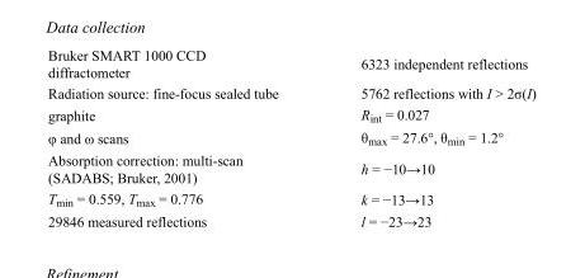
<table><tbody><tr><td>Bruker SMART 1000 CCD diffractometer</td><td>6323 independent reflections</td></tr><tr><td>Radiation source: fine-focus sealed tube</td><td>5762 reflections with I &gt; 2σ(I)</td></tr><tr><td>graphite</td><td>R<sub>int</sub> = 0.027</td></tr><tr><td>φ and ω scans</td><td>θ<sub>max</sub> = 27.6°, θ<sub>min</sub> = 1.2°</td></tr><tr><td>Absorption correction: multi-scan (SADABS; Bruker, 2001)</td><td>h = −10→10</td></tr><tr><td>T<sub>min</sub> = 0.559, T<sub>max</sub> = 0.776</td><td>k = −13→13</td></tr><tr><td>29846 measured reflections</td><td>l = −23→23</td></tr></tbody></table>